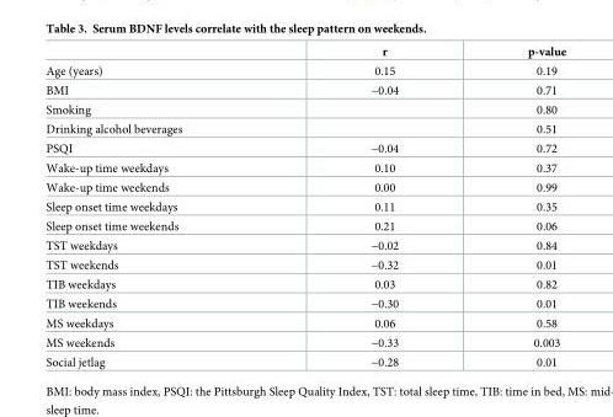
<table><thead><tr><td></td><td>r</td><td>p-value</td></tr></thead><tbody><tr><td>Age (years)</td><td>0.15</td><td>0.19</td></tr><tr><td>BMI</td><td>−0.04</td><td>0.71</td></tr><tr><td>Smoking</td><td></td><td>0.80</td></tr><tr><td>Drinking alcohol beverages</td><td></td><td>0.51</td></tr><tr><td>PSQI</td><td>−0.04</td><td>0.72</td></tr><tr><td>Wake-up time weekdays</td><td>0.10</td><td>0.37</td></tr><tr><td>Wake-up time weekends</td><td>0.00</td><td>0.99</td></tr><tr><td>Sleep onset time weekdays</td><td>0.11</td><td>0.35</td></tr><tr><td>Sleep onset time weekends</td><td>0.21</td><td>0.06</td></tr><tr><td>TST weekdays</td><td>−0.02</td><td>0.84</td></tr><tr><td>TST weekends</td><td>−0.32</td><td>0.01</td></tr><tr><td>TIB weekdays</td><td>0.03</td><td>0.82</td></tr><tr><td>TIB weekends</td><td>−0.30</td><td>0.01</td></tr><tr><td>MS weekdays</td><td>0.06</td><td>0.58</td></tr><tr><td>MS weekends</td><td>−0.33</td><td>0.003</td></tr><tr><td>Social jetlag</td><td>−0.28</td><td>0.01</td></tr></tbody></table>